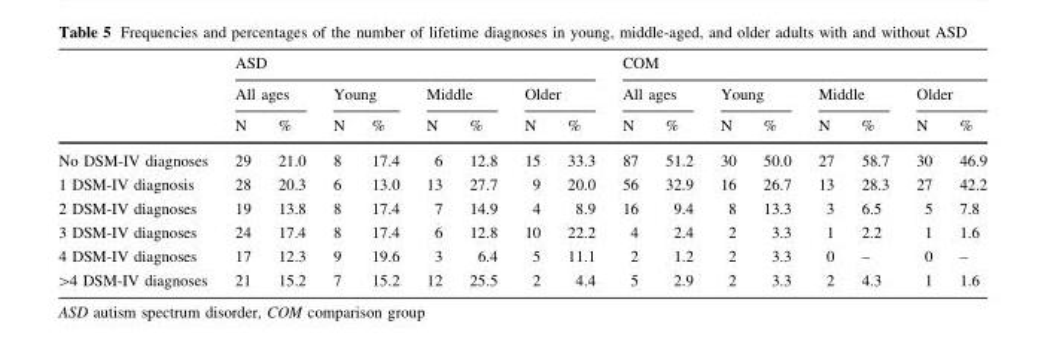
<table><thead><tr><td rowspan="3"></td><td colspan="8">ASD</td><td colspan="8">COM</td></tr><tr><td colspan="2">All ages</td><td colspan="2">Young</td><td colspan="2">Middle</td><td colspan="2">Older</td><td colspan="2">All ages</td><td colspan="2">Young</td><td colspan="2">Middle</td><td colspan="2">Older</td></tr><tr><td>N</td><td>%</td><td>N</td><td>%</td><td>N</td><td>%</td><td>N</td><td>%</td><td>N</td><td>%</td><td>N</td><td>%</td><td>N</td><td>%</td><td>N</td><td>%</td></tr></thead><tbody><tr><td>No DSM-IV diagnoses</td><td>29</td><td>21.0</td><td>8</td><td>17.4</td><td>6</td><td>12.8</td><td>15</td><td>33.3</td><td>87</td><td>51.2</td><td>30</td><td>50.0</td><td>27</td><td>58.7</td><td>30</td><td>46.9</td></tr><tr><td>1 DSM-IV diagnosis</td><td>28</td><td>20.3</td><td>6</td><td>13.0</td><td>13</td><td>27.7</td><td>9</td><td>20.0</td><td>56</td><td>32.9</td><td>16</td><td>26.7</td><td>13</td><td>28.3</td><td>27</td><td>42.2</td></tr><tr><td>2 DSM-IV diagnoses</td><td>19</td><td>13.8</td><td>8</td><td>17.4</td><td>7</td><td>14.9</td><td>4</td><td>8.9</td><td>16</td><td>9.4</td><td>8</td><td>13.3</td><td>3</td><td>6.5</td><td>5</td><td>7.8</td></tr><tr><td>3 DSM-IV diagnoses</td><td>24</td><td>17.4</td><td>8</td><td>17.4</td><td>6</td><td>12.8</td><td>10</td><td>22.2</td><td>4</td><td>2.4</td><td>2</td><td>3.3</td><td>1</td><td>2.2</td><td>1</td><td>1.6</td></tr><tr><td>4 DSM-IV diagnoses</td><td>17</td><td>12.3</td><td>9</td><td>19.6</td><td>3</td><td>6.4</td><td>5</td><td>11.1</td><td>2</td><td>1.2</td><td>2</td><td>3.3</td><td>0</td><td>–</td><td>0</td><td>–</td></tr><tr><td>&gt;4 DSM-IV diagnoses</td><td>21</td><td>15.2</td><td>7</td><td>15.2</td><td>12</td><td>25.5</td><td>2</td><td>4.4</td><td>5</td><td>2.9</td><td>2</td><td>3.3</td><td>2</td><td>4.3</td><td>1</td><td>1.6</td></tr></tbody></table>